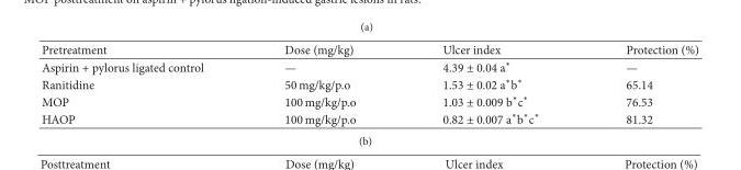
<table><thead><tr><td>Pretreatment</td><td>Dose (mg/kg)</td><td>Ulcer index</td><td>Protection (%)</td></tr></thead><tbody><tr><td>Aspirin + pylorus ligated control</td><td>—</td><td>4.39 ± 0.04 a∗</td><td>—</td></tr><tr><td>Ranitidine</td><td>50 mg/kg/p.o</td><td>1.53 ± 0.02 a∗b∗</td><td>65.14</td></tr><tr><td>MOP</td><td>100 mg/kg/p.o</td><td>1.03 ± 0.009 b∗c∗</td><td>76.53</td></tr><tr><td>HAOP</td><td>100 mg/kg/p.o</td><td>0.82 ± 0.007 a∗b∗c∗</td><td>81.32</td></tr></tbody></table>